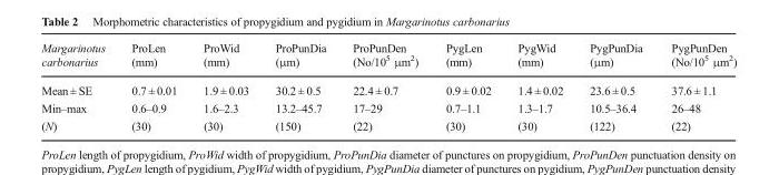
<table><thead><tr><td>Margarinotus carbonarius</td><td>ProLen (mm)</td><td>ProWid (mm)</td><td>ProPunDia (μm)</td><td>ProPunDen (No/10<sup>5</sup> μm<sup>2</sup>)</td><td>PygLen (mm)</td><td>PygWid (mm)</td><td>PygPunDia (μm)</td><td>PygPunDen (No/10<sup>5</sup> μm<sup>2</sup>)</td></tr></thead><tbody><tr><td>Mean ± SE</td><td>0.7 ± 0.01</td><td>1.9 ± 0.03</td><td>30.2 ± 0.5</td><td>22.4 ± 0.7</td><td>0.9 ± 0.02</td><td>1.4 ± 0.02</td><td>23.6 ± 0.5</td><td>37.6 ± 1.1</td></tr><tr><td>Min–max</td><td>0.6–0.9</td><td>1.6–2.3</td><td>13.2–45.7</td><td>17–29</td><td>0.7–1.1</td><td>1.3–1.7</td><td>10.5–36.4</td><td>26–48</td></tr><tr><td>(N)</td><td>(30)</td><td>(30)</td><td>(150)</td><td>(22)</td><td>(30)</td><td>(30)</td><td>(122)</td><td>(22)</td></tr></tbody></table>